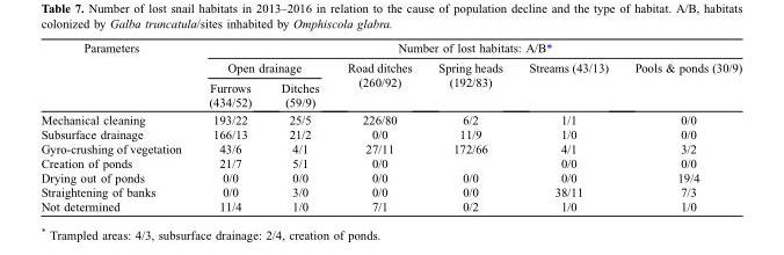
<table><thead><tr><td rowspan="3">Parameters</td><td colspan="6">Number of lost habitats: A/B*</td></tr><tr><td colspan="2">Open drainage</td><td rowspan="2">Road ditches (260/92)</td><td rowspan="2">Spring heads (192/83)</td><td rowspan="2">Streams (43/13)</td><td rowspan="2">Pools &amp; ponds (30/9)</td></tr><tr><td>Furrows (434/52)</td><td>Ditches (59/9)</td></tr></thead><tbody><tr><td>Mechanical cleaning</td><td>193/22</td><td>25/5</td><td>226/80</td><td>6/2</td><td>1/1</td><td>0/0</td></tr><tr><td>Subsurface drainage</td><td>166/13</td><td>21/2</td><td>0/0</td><td>11/9</td><td>1/0</td><td>0/0</td></tr><tr><td>Gyro-crushing of vegetation</td><td>43/6</td><td>4/1</td><td>27/11</td><td>172/66</td><td>4/1</td><td>3/2</td></tr><tr><td>Creation of ponds</td><td>21/7</td><td>5/1</td><td>0/0</td><td></td><td>0/0</td><td>0/0</td></tr><tr><td>Drying out of ponds</td><td>0/0</td><td>0/0</td><td>0/0</td><td>0/0</td><td>0/0</td><td>19/4</td></tr><tr><td>Straightening of banks</td><td>0/0</td><td>3/0</td><td>0/0</td><td>0/0</td><td>38/11</td><td>7/3</td></tr><tr><td>Not determined</td><td>11/4</td><td>1/0</td><td>7/1</td><td>0/2</td><td>1/0</td><td>1/0</td></tr></tbody></table>